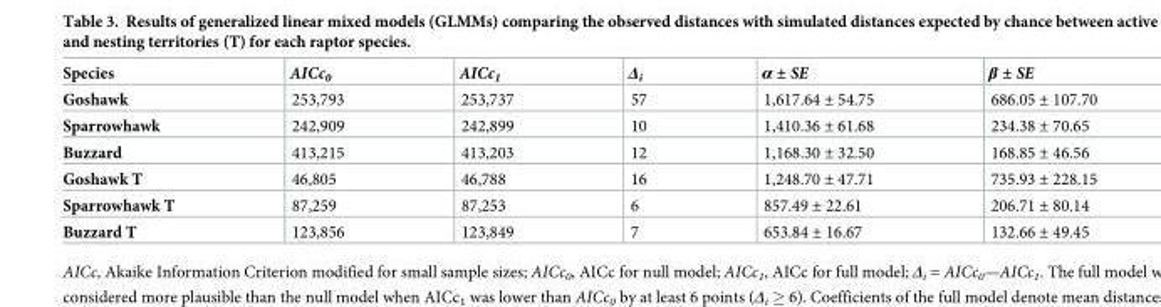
<table><thead><tr><td>Species</td><td>AICc<sub>0</sub></td><td>AICc<sub>1</sub></td><td>Δ<sub>i</sub></td><td>α ± SE</td><td>β ± SE</td></tr></thead><tbody><tr><td>Goshawk</td><td>253,793</td><td>253,737</td><td>57</td><td>1,617.64 ± 54.75</td><td>686.05 ± 107.70</td></tr><tr><td>Sparrowhawk</td><td>242,909</td><td>242,899</td><td>10</td><td>1,410.36 ± 61.68</td><td>234.38 ± 70.65</td></tr><tr><td>Buzzard</td><td>413,215</td><td>413,203</td><td>12</td><td>1,168.30 ± 32.50</td><td>168.85 ± 46.56</td></tr><tr><td>Goshawk T</td><td>46,805</td><td>46,788</td><td>16</td><td>1,248.70 ± 47.71</td><td>735.93 ± 228.15</td></tr><tr><td>Sparrowhawk T</td><td>87,259</td><td>87,253</td><td>6</td><td>857.49 ± 22.61</td><td>206.71 ± 80.14</td></tr><tr><td>Buzzard T</td><td>123,856</td><td>123,849</td><td>7</td><td>653.84 ± 16.67</td><td>132.66 ± 49.45</td></tr></tbody></table>